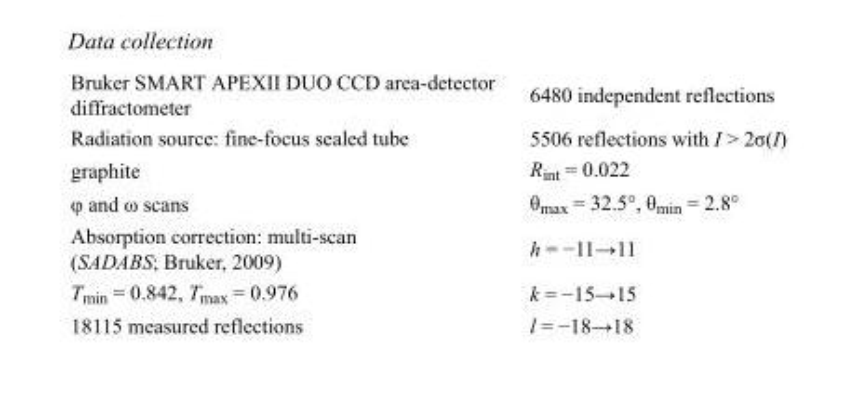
<table><tbody><tr><td>Bruker SMART APEXII DUO CCD area-detector diffractometer</td><td>6480 independent reflections</td></tr><tr><td>Radiation source: fine-focus sealed tube</td><td>5506 reflections with I &gt; 2σ(I)</td></tr><tr><td>graphite</td><td>R<sub>int</sub> = 0.022</td></tr><tr><td>φ and ω scans</td><td>θ<sub>max</sub> = 32.5°, θ<sub>min</sub> = 2.8°</td></tr><tr><td>Absorption correction: multi-scan (SADABS; Bruker, 2009)</td><td>h = −11→11</td></tr><tr><td>T<sub>min</sub> = 0.842, T<sub>max</sub> = 0.976</td><td>k = −15→15</td></tr><tr><td>18115 measured reflections</td><td>l = −18→18</td></tr></tbody></table>